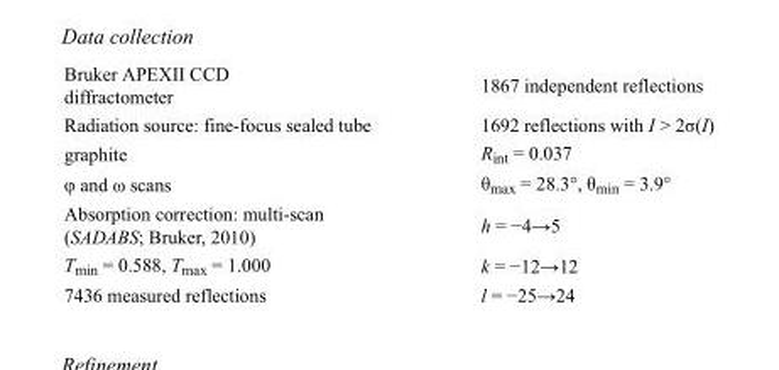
<table><tbody><tr><td>Bruker APEXII CCD diffractometer</td><td>1867 independent reflections</td></tr><tr><td>Radiation source: fine-focus sealed tube</td><td>1692 reflections with I &gt; 2σ(I)</td></tr><tr><td>graphite</td><td>R<sub>int</sub> = 0.037</td></tr><tr><td>φ and ω scans</td><td>θ<sub>max</sub> = 28.3°, θ<sub>min</sub> = 3.9°</td></tr><tr><td>Absorption correction: multi-scan (SADABS; Bruker, 2010)</td><td>h = −4→5</td></tr><tr><td>T<sub>min</sub> = 0.588, T<sub>max</sub> = 1.000</td><td>k = −12→12</td></tr><tr><td>7436 measured reflections</td><td>l = −25→24</td></tr></tbody></table>